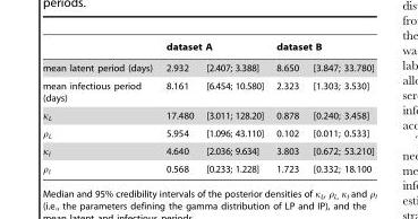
<table><thead><tr><td rowspan="2">mean latent period (days)</td><td colspan="2">dataset A</td><td colspan="2">dataset B</td></tr><tr><td>2.932</td><td>[2.407; 3.388]</td><td>8.650</td><td>[3.847; 33.780]</td></tr></thead><tbody><tr><td>mean infectious period (days)</td><td>8.161</td><td>[6.454; 10.580]</td><td>2.323</td><td>[1.303; 3.530]</td></tr><tr><td>κ<sub>L</sub></td><td>17.480</td><td>[3.011; 128.20]</td><td>0.878</td><td>[0.240; 3.458]</td></tr><tr><td>ρ<sub>L</sub></td><td>5.954</td><td>[1.096; 43.110]</td><td>0.102</td><td>[0.011; 0.533]</td></tr><tr><td>κ<sub>I</sub></td><td>4.640</td><td>[2.036; 9.634]</td><td>3.803</td><td>[0.672; 53.210]</td></tr><tr><td>ρ<sub>I</sub></td><td>0.568</td><td>[0.233; 1.228]</td><td>1.723</td><td>[0.332; 18.100</td></tr></tbody></table>